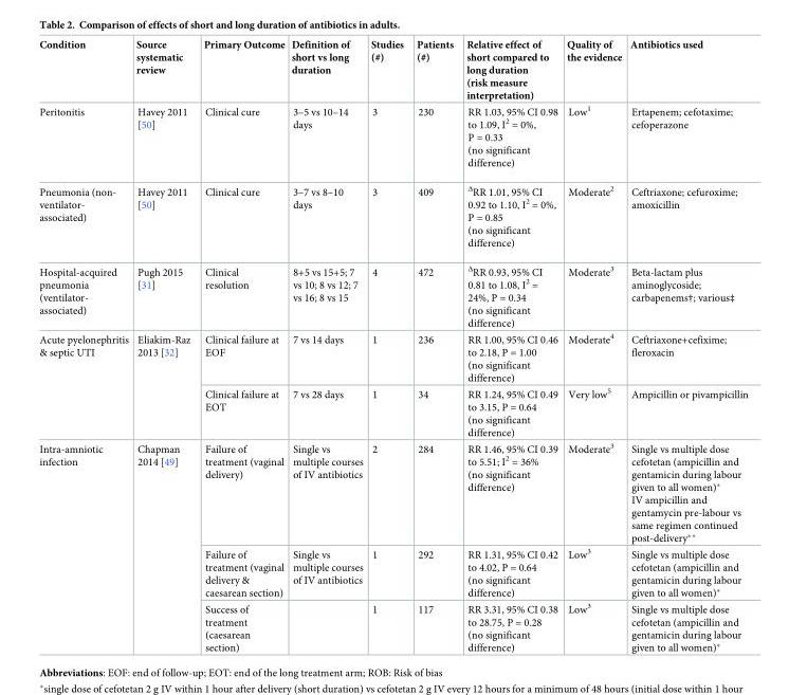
<table><thead><tr><td>Condition</td><td>Source systematic review</td><td>Primary Outcome</td><td>Definition of short vs long duration</td><td>Studies (#)</td><td>Patients (#)</td><td>Relative effect of short compared to long duration (risk measure interpretation)</td><td>Quality of the evidence</td><td>Antibiotics used</td></tr></thead><tbody><tr><td>Peritonitis</td><td>Havey 2011 [50]</td><td>Clinical cure</td><td>3–5 vs 10–14 days</td><td>3</td><td>230</td><td>RR 1.03, 95% CI 0.98 to 1.09, I<sup>2</sup> = 0%, P = 0.33 (no significant difference)</td><td>Low<sup>1</sup></td><td>Ertapenem; cefotaxime; cefoperazone</td></tr><tr><td>Pneumonia (non- ventilator- associated)</td><td>Havey 2011 [50]</td><td>Clinical cure</td><td>3–7 vs 8–10 days</td><td>3</td><td>409</td><td><sup>Δ</sup>RR 1.01, 95% CI 0.92 to 1.10, I<sup>2</sup> = 0%, P = 0.85 (no significant difference)</td><td>Moderate<sup>2</sup></td><td>Ceftriaxone; cefuroxime; amoxicillin</td></tr><tr><td>Hospital-acquired pneumonia (ventilator- associated)</td><td>Pugh 2015 [31]</td><td>Clinical resolution</td><td>8+5 vs 15+5; 7 vs 10; 8 vs 12; 7 vs 16; 8 vs 15</td><td>4</td><td>472</td><td><sup>Δ</sup>RR 0.93, 95% CI 0.81 to 1.08, I<sup>2</sup> = 24%, P = 0.34 (no significant difference)</td><td>Moderate<sup>3</sup></td><td>Beta-lactam plus aminoglycoside; carbapenems†; various‡</td></tr><tr><td rowspan="2">Acute pyelonephritis &amp; septic UTI</td><td rowspan="2">Eliakim-Raz 2013 [32]</td><td>Clinical failure at EOF</td><td>7 vs 14 days</td><td>1</td><td>236</td><td>RR 1.00, 95% CI 0.46 to 2.18, P = 1.00 (no significant difference)</td><td>Moderate<sup>4</sup></td><td>Ceftriaxone+cefixime; fleroxacin</td></tr><tr><td>Clinical failure at EOT</td><td>7 vs 28 days</td><td>1</td><td>34</td><td>RR 1.24, 95% CI 0.49 to 3.15, P = 0.64 (no significant difference)</td><td>Very low<sup>5</sup></td><td>Ampicillin or pivampicillin</td></tr><tr><td rowspan="3">Intra-amniotic infection</td><td rowspan="3">Chapman 2014 [49]</td><td>Failure of treatment (vaginal delivery)</td><td>Single vs multiple courses of IV antibiotics</td><td>2</td><td>284</td><td>RR 1.46, 95% CI 0.39 to 5.51; I<sup>2</sup> = 36% (no significant difference)</td><td>Moderate<sup>3</sup></td><td>Single vs multiple dose cefotetan (ampicillin and gentamicin during labour given to all women)* IV ampicillin and gentamycin pre-labour vs same regimen continued post-delivery**</td></tr><tr><td>Failure of treatment (vaginal delivery &amp; caesarean section)</td><td>Single vs multiple courses of IV antibiotics</td><td>1</td><td>292</td><td>RR 1.31, 95% CI 0.42 to 4.02, P = 0.64 (no significant difference)</td><td>Low<sup>3</sup></td><td>Single vs multiple dose cefotetan (ampicillin and gentamicin during labour given to all women)*</td></tr><tr><td>Success of treatment (caesarean section)</td><td></td><td>1</td><td>117</td><td>RR 3.31, 95% CI 0.38 to 28.75, P = 0.28 (no significant difference)</td><td>Low<sup>3</sup></td><td>Single vs multiple dose cefotetan (ampicillin and gentamicin during labour given to all women)*</td></tr></tbody></table>